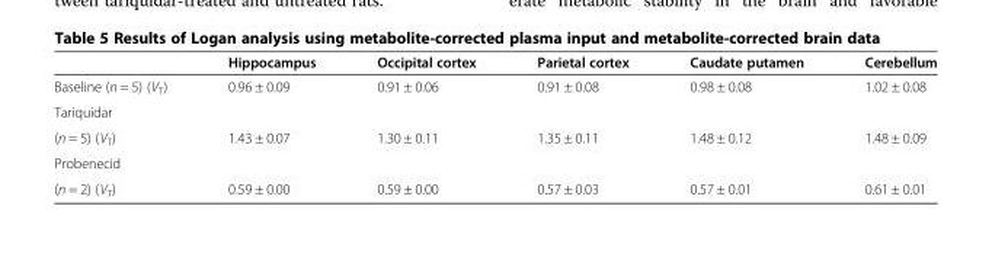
<table><thead><tr><td></td><td>Hippocampus</td><td>Occipital cortex</td><td>Parietal cortex</td><td>Caudate putamen</td><td>Cerebellum</td></tr></thead><tbody><tr><td>Baseline (n = 5) (V<sub>T</sub>)</td><td>0.96 ± 0.09</td><td>0.91 ± 0.06</td><td>0.91 ± 0.08</td><td>0.98 ± 0.08</td><td>1.02 ± 0.08</td></tr><tr><td colspan="6">Tariquidar</td></tr><tr><td>(n = 5) (V<sub>T</sub>)</td><td>1.43 ± 0.07</td><td>1.30 ± 0.11</td><td>1.35 ± 0.11</td><td>1.48 ± 0.12</td><td>1.48 ± 0.09</td></tr><tr><td colspan="6">Probenecid</td></tr><tr><td>(n = 2) (V<sub>T</sub>)</td><td>0.59 ± 0.00</td><td>0.59 ± 0.00</td><td>0.57 ± 0.03</td><td>0.57 ± 0.01</td><td>0.61 ± 0.01</td></tr></tbody></table>